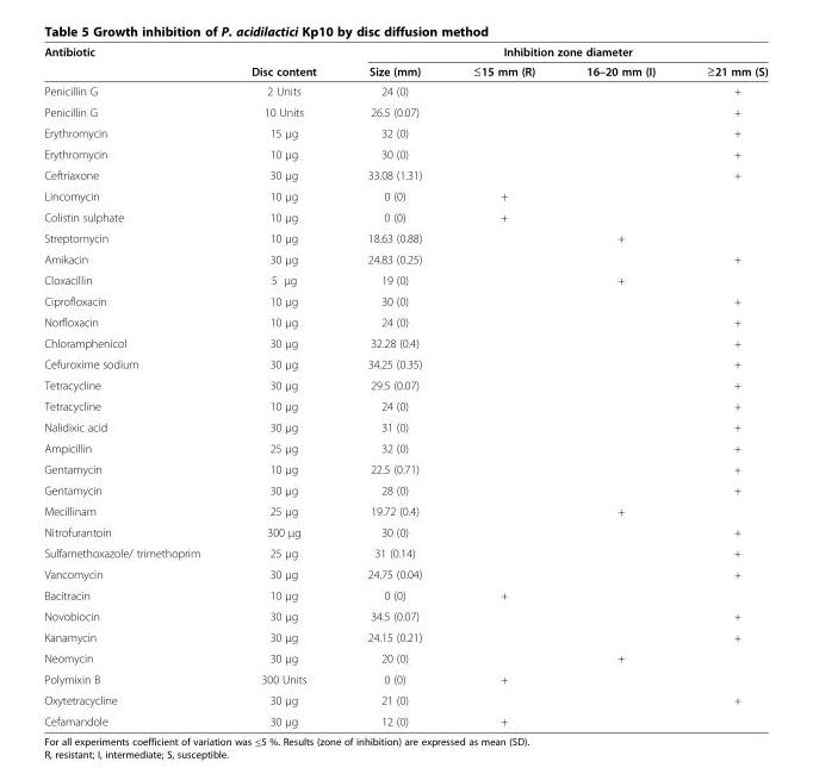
<table><thead><tr><td rowspan="2">Antibiotic</td><td rowspan="2">Disc content</td><td colspan="4">Inhibition zone diameter</td></tr><tr><td>Size (mm)</td><td>≤15 mm (R)</td><td>16–20 mm (I)</td><td>≥21 mm (S)</td></tr></thead><tbody><tr><td>Penicillin G</td><td>2 Units</td><td>24 (0)</td><td></td><td></td><td>+</td></tr><tr><td>Penicillin G</td><td>10 Units</td><td>26.5 (0.07)</td><td></td><td></td><td>+</td></tr><tr><td>Erythromycin</td><td>15 μg</td><td>32 (0)</td><td></td><td></td><td>+</td></tr><tr><td>Erythromycin</td><td>10 μg</td><td>30 (0)</td><td></td><td></td><td>+</td></tr><tr><td>Ceftriaxone</td><td>30 μg</td><td>33.08 (1.31)</td><td></td><td></td><td>+</td></tr><tr><td>Lincomycin</td><td>10 μg</td><td>0 (0)</td><td>+</td><td></td><td></td></tr><tr><td>Colistin sulphate</td><td>10 μg</td><td>0 (0)</td><td>+</td><td></td><td></td></tr><tr><td>Streptomycin</td><td>10 μg</td><td>18.63 (0.88)</td><td></td><td>+</td><td></td></tr><tr><td>Amikacin</td><td>30 μg</td><td>24.83 (0.25)</td><td></td><td></td><td>+</td></tr><tr><td>Cloxacillin</td><td>5 μg</td><td>19 (0)</td><td></td><td>+</td><td></td></tr><tr><td>Ciprofloxacin</td><td>10 μg</td><td>30 (0)</td><td></td><td></td><td>+</td></tr><tr><td>Norfloxacin</td><td>10 μg</td><td>24 (0)</td><td></td><td></td><td>+</td></tr><tr><td>Chloramphenicol</td><td>30 μg</td><td>32.28 (0.4)</td><td></td><td></td><td>+</td></tr><tr><td>Cefuroxime sodium</td><td>30 μg</td><td>34.25 (0.35)</td><td></td><td></td><td>+</td></tr><tr><td>Tetracycline</td><td>30 μg</td><td>29.5 (0.07)</td><td></td><td></td><td>+</td></tr><tr><td>Tetracycline</td><td>10 μg</td><td>24 (0)</td><td></td><td></td><td>+</td></tr><tr><td>Nalidixic acid</td><td>30 μg</td><td>31 (0)</td><td></td><td></td><td>+</td></tr><tr><td>Ampicillin</td><td>25 μg</td><td>32 (0)</td><td></td><td></td><td>+</td></tr><tr><td>Gentamycin</td><td>10 μg</td><td>22.5 (0.71)</td><td></td><td></td><td>+</td></tr><tr><td>Gentamycin</td><td>30 μg</td><td>28 (0)</td><td></td><td></td><td>+</td></tr><tr><td>Mecillinam</td><td>25 μg</td><td>19.72 (0.4)</td><td></td><td>+</td><td></td></tr><tr><td>Nitrofurantoin</td><td>300 μg</td><td>30 (0)</td><td></td><td></td><td>+</td></tr><tr><td>Sulfamethoxazole/ trimethoprim</td><td>25 μg</td><td>31 (0.14)</td><td></td><td></td><td>+</td></tr><tr><td>Vancomycin</td><td>30 μg</td><td>24.75 (0.04)</td><td></td><td></td><td>+</td></tr><tr><td>Bacitracin</td><td>10 μg</td><td>0 (0)</td><td>+</td><td></td><td></td></tr><tr><td>Novobiocin</td><td>30 μg</td><td>34.5 (0.07)</td><td></td><td></td><td>+</td></tr><tr><td>Kanamycin</td><td>30 μg</td><td>24.15 (0.21)</td><td></td><td></td><td>+</td></tr><tr><td>Neomycin</td><td>30 μg</td><td>20 (0)</td><td></td><td>+</td><td></td></tr><tr><td>Polymixin B</td><td>300 Units</td><td>0 (0)</td><td>+</td><td></td><td></td></tr><tr><td>Oxytetracycline</td><td>30 μg</td><td>21 (0)</td><td></td><td></td><td>+</td></tr><tr><td>Cefamandole</td><td>30 μg</td><td>12 (0)</td><td>+</td><td></td><td></td></tr></tbody></table>